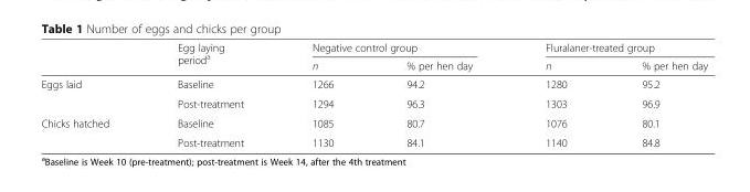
<table><thead><tr><td rowspan="2"></td><td rowspan="2">Egg laying period<sup>a</sup></td><td colspan="2">Negative control group</td><td colspan="2">Fluralaner-treated group</td></tr><tr><td>n</td><td>% per hen day</td><td>n</td><td>% per hen day</td></tr></thead><tbody><tr><td rowspan="2">Eggs laid</td><td>Baseline</td><td>1266</td><td>94.2</td><td>1280</td><td>95.2</td></tr><tr><td>Post-treatment</td><td>1294</td><td>96.3</td><td>1303</td><td>96.9</td></tr><tr><td rowspan="2">Chicks hatched</td><td>Baseline</td><td>1085</td><td>80.7</td><td>1076</td><td>80.1</td></tr><tr><td>Post-treatment</td><td>1130</td><td>84.1</td><td>1140</td><td>84.8</td></tr></tbody></table>